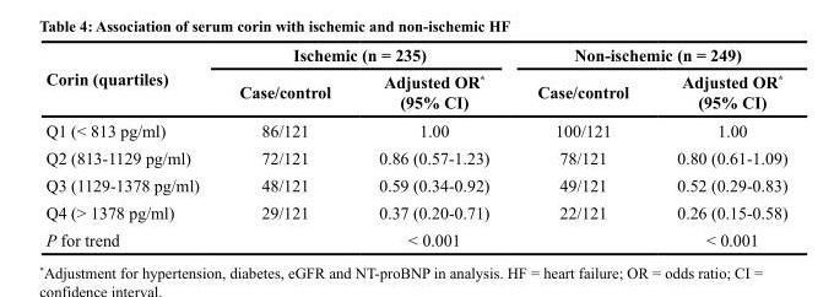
<table><thead><tr><td rowspan="2">Corin (quartiles)</td><td colspan="2">Ischemic (n = 235)</td><td colspan="2">Non-ischemic (n = 249)</td></tr><tr><td>Case/control</td><td>Adjusted OR* (95% CI)</td><td>Case/control</td><td>Adjusted OR* (95% CI)</td></tr></thead><tbody><tr><td>Q1 (&lt; 813 pg/ml)</td><td>86/121</td><td>1.00</td><td>100/121</td><td>1.00</td></tr><tr><td>Q2 (813-1129 pg/ml)</td><td>72/121</td><td>0.86 (0.57-1.23)</td><td>78/121</td><td>0.80 (0.61-1.09)</td></tr><tr><td>Q3 (1129-1378 pg/ml)</td><td>48/121</td><td>0.59 (0.34-0.92)</td><td>49/121</td><td>0.52 (0.29-0.83)</td></tr><tr><td>Q4 (&gt; 1378 pg/ml)</td><td>29/121</td><td>0.37 (0.20-0.71)</td><td>22/121</td><td>0.26 (0.15-0.58)</td></tr><tr><td>P for trend</td><td></td><td>&lt; 0.001</td><td></td><td>&lt; 0.001</td></tr></tbody></table>